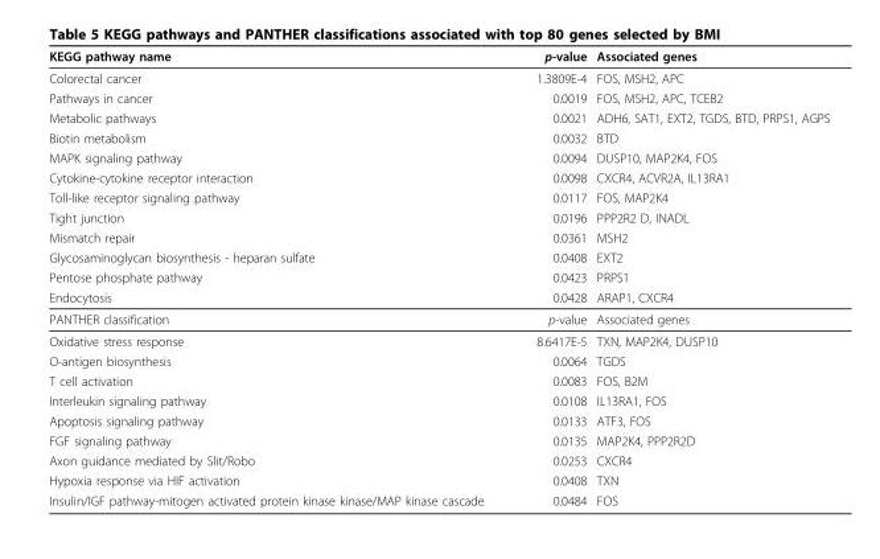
<table><thead><tr><td>KEGG pathway name</td><td>p-value</td><td>Associated genes</td></tr></thead><tbody><tr><td>Colorectal cancer</td><td>1.3809E-4</td><td>FOS, MSH2, APC</td></tr><tr><td>Pathways in cancer</td><td>0.0019</td><td>FOS, MSH2, APC, TCEB2</td></tr><tr><td>Metabolic pathways</td><td>0.0021</td><td>ADH6, SAT1, EXT2, TGDS, BTD, PRPS1, AGPS</td></tr><tr><td>Biotin metabolism</td><td>0.0032</td><td>BTD</td></tr><tr><td>MAPK signaling pathway</td><td>0.0094</td><td>DUSP10, MAP2K4, FOS</td></tr><tr><td>Cytokine-cytokine receptor interaction</td><td>0.0098</td><td>CXCR4, ACVR2A, IL13RA1</td></tr><tr><td>Toll-like receptor signaling pathway</td><td>0.0117</td><td>FOS, MAP2K4</td></tr><tr><td>Tight junction</td><td>0.0196</td><td>PPP2R2 D, INADL</td></tr><tr><td>Mismatch repair</td><td>0.0361</td><td>MSH2</td></tr><tr><td>Glycosaminoglycan biosynthesis - heparan sulfate</td><td>0.0408</td><td>EXT2</td></tr><tr><td>Pentose phosphate pathway</td><td>0.0423</td><td>PRPS1</td></tr><tr><td>Endocytosis</td><td>0.0428</td><td>ARAP1, CXCR4</td></tr><tr><td>PANTHER classification</td><td>p-value</td><td>Associated genes</td></tr><tr><td>Oxidative stress response</td><td>8.6417E-5</td><td>TXN, MAP2K4, DUSP10</td></tr><tr><td>O-antigen biosynthesis</td><td>0.0064</td><td>TGDS</td></tr><tr><td>T cell activation</td><td>0.0083</td><td>FOS, B2M</td></tr><tr><td>Interleukin signaling pathway</td><td>0.0108</td><td>IL13RA1, FOS</td></tr><tr><td>Apoptosis signaling pathway</td><td>0.0133</td><td>ATF3, FOS</td></tr><tr><td>FGF signaling pathway</td><td>0.0135</td><td>MAP2K4, PPP2R2D</td></tr><tr><td>Axon guidance mediated by Slit/Robo</td><td>0.0253</td><td>CXCR4</td></tr><tr><td>Hypoxia response via HIF activation</td><td>0.0408</td><td>TXN</td></tr><tr><td>Insulin/IGF pathway-mitogen activated protein kinase kinase/MAP kinase cascade</td><td>0.0484</td><td>FOS</td></tr></tbody></table>